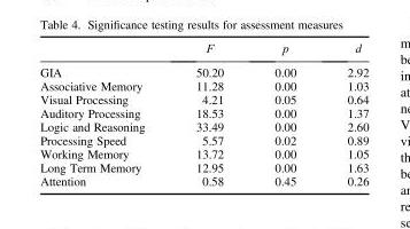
<table><thead><tr><td></td><td>F</td><td>p</td><td>d</td></tr></thead><tbody><tr><td>GIA</td><td>50.20</td><td>0.00</td><td>2.92</td></tr><tr><td>Associative Memory</td><td>11.28</td><td>0.00</td><td>1.03</td></tr><tr><td>Visual Processing</td><td>4.21</td><td>0.05</td><td>0.64</td></tr><tr><td>Auditory Processing</td><td>18.53</td><td>0.00</td><td>1.37</td></tr><tr><td>Logic and Reasoning</td><td>33.49</td><td>0.00</td><td>2.60</td></tr><tr><td>Processing Speed</td><td>5.57</td><td>0.02</td><td>0.89</td></tr><tr><td>Working Memory</td><td>13.72</td><td>0.00</td><td>1.05</td></tr><tr><td>Long Term Memory</td><td>12.95</td><td>0.00</td><td>1.63</td></tr><tr><td>Attention</td><td>0.58</td><td>0.45</td><td>0.26</td></tr></tbody></table>